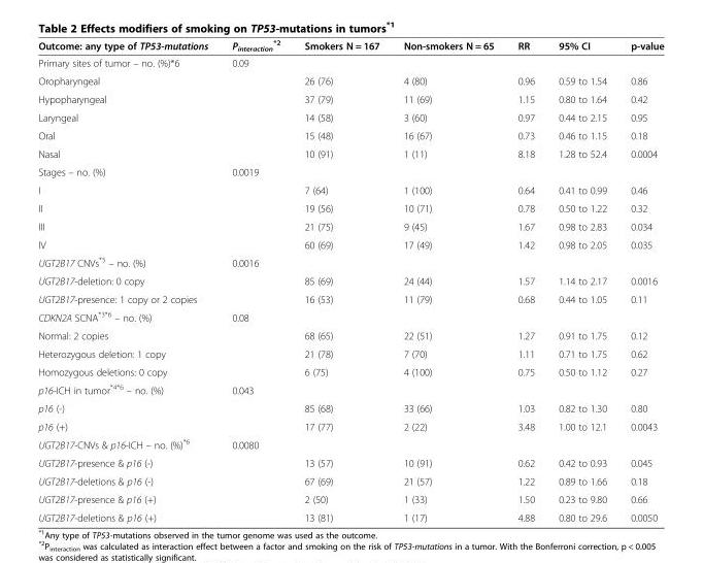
<table><thead><tr><td>Outcome: any type of TP53-mutations</td><td>P<sub>interaction</sub> <sup>*2</sup></td><td>Smokers N = 167</td><td>Non-smokers N = 65</td><td>RR</td><td>95% CI</td><td>p-value</td></tr></thead><tbody><tr><td>Primary sites of tumor – no. (%)*6</td><td>0.09</td><td></td><td></td><td></td><td></td><td></td></tr><tr><td>Oropharyngeal</td><td></td><td>26 (76)</td><td>4 (80)</td><td>0.96</td><td>0.59 to 1.54</td><td>0.86</td></tr><tr><td>Hypopharyngeal</td><td></td><td>37 (79)</td><td>11 (69)</td><td>1.15</td><td>0.80 to 1.64</td><td>0.42</td></tr><tr><td>Laryngeal</td><td></td><td>14 (58)</td><td>3 (60)</td><td>0.97</td><td>0.44 to 2.15</td><td>0.95</td></tr><tr><td>Oral</td><td></td><td>15 (48)</td><td>16 (67)</td><td>0.73</td><td>0.46 to 1.15</td><td>0.18</td></tr><tr><td>Nasal</td><td></td><td>10 (91)</td><td>1 (11)</td><td>8.18</td><td>1.28 to 52.4</td><td>0.0004</td></tr><tr><td>Stages – no. (%)</td><td>0.0019</td><td></td><td></td><td></td><td></td><td></td></tr><tr><td>I</td><td></td><td>7 (64)</td><td>1 (100)</td><td>0.64</td><td>0.41 to 0.99</td><td>0.46</td></tr><tr><td>II</td><td></td><td>19 (56)</td><td>10 (71)</td><td>0.78</td><td>0.50 to 1.22</td><td>0.32</td></tr><tr><td>III</td><td></td><td>21 (75)</td><td>9 (45)</td><td>1.67</td><td>0.98 to 2.83</td><td>0.034</td></tr><tr><td>IV</td><td></td><td>60 (69)</td><td>17 (49)</td><td>1.42</td><td>0.98 to 2.05</td><td>0.035</td></tr><tr><td>UGT2B17 CNVs<sup>*5</sup> – no. (%)</td><td>0.0016</td><td></td><td></td><td></td><td></td><td></td></tr><tr><td>UGT2B17-deletion: 0 copy</td><td></td><td>85 (69)</td><td>24 (44)</td><td>1.57</td><td>1.14 to 2.17</td><td>0.0016</td></tr><tr><td>UGT2B17-presence: 1 copy or 2 copies</td><td></td><td>16 (53)</td><td>11 (79)</td><td>0.68</td><td>0.44 to 1.05</td><td>0.11</td></tr><tr><td>CDKN2A SCNA<sup>*3*6</sup> – no. (%)</td><td>0.08</td><td></td><td></td><td></td><td></td><td></td></tr><tr><td>Normal: 2 copies</td><td></td><td>68 (65)</td><td>22 (51)</td><td>1.27</td><td>0.91 to 1.75</td><td>0.12</td></tr><tr><td>Heterozygous deletion: 1 copy</td><td></td><td>21 (78)</td><td>7 (70)</td><td>1.11</td><td>0.71 to 1.75</td><td>0.62</td></tr><tr><td>Homozygous deletions: 0 copy</td><td></td><td>6 (75)</td><td>4 (100)</td><td>0.75</td><td>0.50 to 1.12</td><td>0.27</td></tr><tr><td>p16-ICH in tumor<sup>*4*6</sup> – no. (%)</td><td>0.043</td><td></td><td></td><td></td><td></td><td></td></tr><tr><td>p16 (-)</td><td></td><td>85 (68)</td><td>33 (66)</td><td>1.03</td><td>0.82 to 1.30</td><td>0.80</td></tr><tr><td>p16 (+)</td><td></td><td>17 (77)</td><td>2 (22)</td><td>3.48</td><td>1.00 to 12.1</td><td>0.0043</td></tr><tr><td>UGT2B17-CNVs &amp; p16-ICH – no. (%)<sup>*6</sup></td><td>0.0080</td><td></td><td></td><td></td><td></td><td></td></tr><tr><td>UGT2B17-presence &amp; p16 (-)</td><td></td><td>13 (57)</td><td>10 (91)</td><td>0.62</td><td>0.42 to 0.93</td><td>0.045</td></tr><tr><td>UGT2B17-deletions &amp; p16 (-)</td><td></td><td>67 (69)</td><td>21 (57)</td><td>1.22</td><td>0.89 to 1.66</td><td>0.18</td></tr><tr><td>UGT2B17-presence &amp; p16 (+)</td><td></td><td>2 (50)</td><td>1 (33)</td><td>1.50</td><td>0.23 to 9.80</td><td>0.66</td></tr><tr><td>UGT2B17-deletions &amp; p16 (+)</td><td></td><td>13 (81)</td><td>1 (17)</td><td>4.88</td><td>0.80 to 29.6</td><td>0.0050</td></tr></tbody></table>